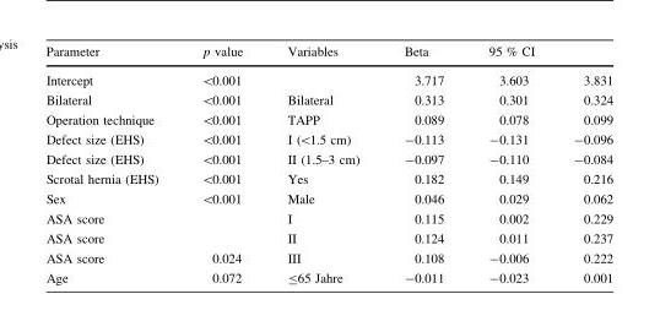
<table><thead><tr><td rowspan="2">Parameter Intercept</td><td rowspan="2">p value &lt;0.001</td><td rowspan="2">Variables</td><td rowspan="2">Beta 3.717</td><td colspan="2">95 % CI</td></tr><tr><td>3.603</td><td>3.831</td></tr></thead><tbody><tr><td>Bilateral</td><td>&lt;0.001</td><td>Bilateral</td><td>0.313</td><td>0.301</td><td>0.324</td></tr><tr><td>Operation technique</td><td>&lt;0.001</td><td>TAPP</td><td>0.089</td><td>0.078</td><td>0.099</td></tr><tr><td>Defect size (EHS)</td><td>&lt;0.001</td><td>I (&lt;1.5 cm)</td><td>-0.113</td><td>-0.131</td><td>-0.096</td></tr><tr><td>Defect size (EHS)</td><td>&lt;0.001</td><td>II (1.5–3 cm)</td><td>-0.097</td><td>-0.110</td><td>-0.084</td></tr><tr><td>Scrotal hernia (EHS)</td><td>&lt;0.001</td><td>Yes</td><td>0.182</td><td>0.149</td><td>0.216</td></tr><tr><td>Sex</td><td>&lt;0.001</td><td>Male</td><td>0.046</td><td>0.029</td><td>0.062</td></tr><tr><td>ASA score</td><td></td><td>I</td><td>0.115</td><td>0.002</td><td>0.229</td></tr><tr><td>ASA score</td><td></td><td>II</td><td>0.124</td><td>0.011</td><td>0.237</td></tr><tr><td>ASA score</td><td>0.024</td><td>III</td><td>0.108</td><td>-0.006</td><td>0.222</td></tr><tr><td>Age</td><td>0.072</td><td>≤65 Jahre</td><td>-0.011</td><td>-0.023</td><td>0.001</td></tr></tbody></table>